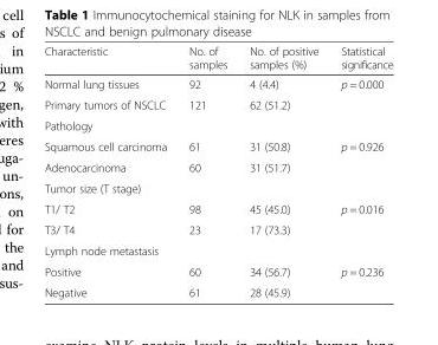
<table><thead><tr><td>Characteristic</td><td>No. of samples</td><td>No. of positive samples (%)</td><td>Statistical significance</td></tr></thead><tbody><tr><td>Normal lung tissues</td><td>92</td><td>4 (4.4)</td><td rowspan="2">p = 0.000</td></tr><tr><td>Primary tumors of NSCLC</td><td>121</td><td>62 (51.2)</td></tr><tr><td colspan="4">Pathology</td></tr><tr><td>Squamous cell carcinoma</td><td>61</td><td>31 (50.8)</td><td rowspan="2">p = 0.926</td></tr><tr><td>Adenocarcinoma</td><td>60</td><td>31 (51.7)</td></tr><tr><td colspan="4">Tumor size (T stage)</td></tr><tr><td>T1/ T2</td><td>98</td><td>45 (45.0)</td><td rowspan="2">p = 0.016</td></tr><tr><td>T3/ T4</td><td>23</td><td>17 (73.3)</td></tr><tr><td colspan="4">Lymph node metastasis</td></tr><tr><td>Positive</td><td>60</td><td>34 (56.7)</td><td rowspan="2">p = 0.236</td></tr><tr><td>Negative</td><td>61</td><td>28 (45.9)</td></tr></tbody></table>